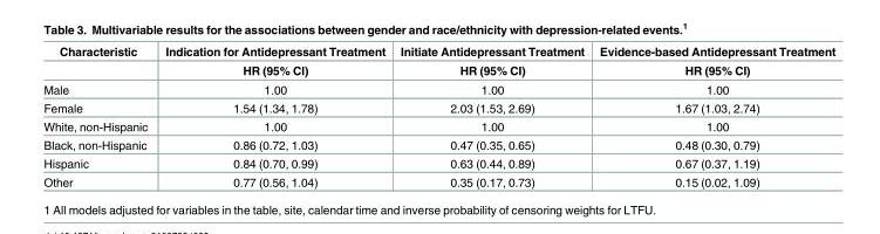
<table><thead><tr><td rowspan="2">Characteristic</td><td rowspan="2">Indication for Antidepressant Treatment HR (95% CI)</td><td rowspan="2">Initiate Antidepressant Treatment HR (95% CI)</td><td rowspan="2">Evidence-based Antidepressant Treatment HR (95% CI)</td></tr><tr></tr></thead><tbody><tr><td>Male</td><td>1.00</td><td>1.00</td><td>1.00</td></tr><tr><td>Female</td><td>1.54 (1.34, 1.78)</td><td>2.03 (1.53, 2.69)</td><td>1.67 (1.03, 2.74)</td></tr><tr><td>White, non-Hispanic</td><td>1.00</td><td>1.00</td><td>1.00</td></tr><tr><td>Black, non-Hispanic</td><td>0.86 (0.72, 1.03)</td><td>0.47 (0.35, 0.65)</td><td>0.48 (0.30, 0.79)</td></tr><tr><td>Hispanic</td><td>0.84 (0.70, 0.99)</td><td>0.63 (0.44, 0.89)</td><td>0.67 (0.37, 1.19)</td></tr><tr><td>Other</td><td>0.77 (0.56, 1.04)</td><td>0.35 (0.17, 0.73)</td><td>0.15 (0.02, 1.09)</td></tr></tbody></table>